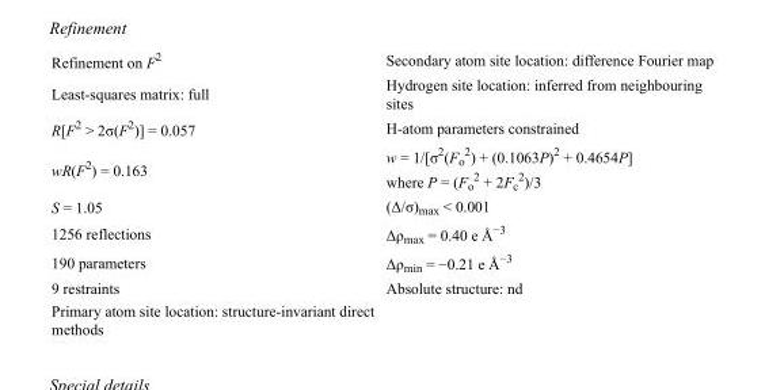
<table><tbody><tr><td>Refinement on F<sup>2</sup></td><td>Secondary atom site location: difference Fourier map</td></tr><tr><td>Least-squares matrix: full</td><td>Hydrogen site location: inferred from neighbouring sites</td></tr><tr><td>R[F<sup>2</sup> &gt; 2σ(F<sup>2</sup>)] = 0.057</td><td>H-atom parameters constrained</td></tr><tr><td>wR(F<sup>2</sup>) = 0.163</td><td>w = 1/[σ<sup>2</sup>(F<sub>o</sub> <sup>2</sup>) + (0.1063P)<sup>2</sup> + 0.4654P] where P = (F<sub>o</sub> <sup>2</sup> + 2F<sub>c</sub> <sup>2</sup>)/3</td></tr><tr><td>S = 1.05</td><td>(Δ/σ)<sub>max</sub> &lt; 0.001</td></tr><tr><td>1256 reflections</td><td>Δρ<sub>max</sub> = 0.40 e Å<sup>−3</sup></td></tr><tr><td>190 parameters</td><td>Δρ<sub>min</sub> = −0.21 e Å<sup>−3</sup></td></tr><tr><td>9 restraints</td><td>Absolute structure: nd</td></tr><tr><td>Primary atom site location: structure-invariant direct methods</td><td></td></tr></tbody></table>